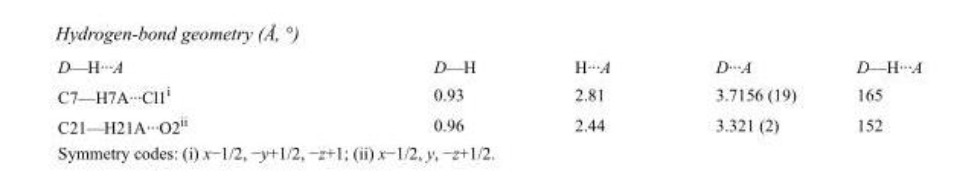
<table><tbody><tr><td>D—H···A</td><td>D—H</td><td>H···A</td><td>D···A</td><td>D—H···A</td></tr><tr><td>C7—H7A···Cl1<sup>i</sup></td><td>0.93</td><td>2.81</td><td>3.7156 (19)</td><td>165</td></tr><tr><td>C21—H21A···O2<sup>ii</sup></td><td>0.96</td><td>2.44</td><td>3.321 (2)</td><td>152</td></tr></tbody></table>